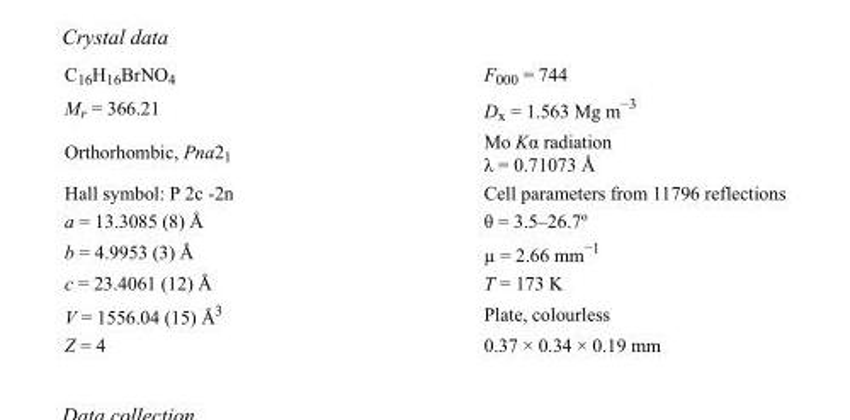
<table><tbody><tr><td>C<sub>16</sub>H<sub>16</sub>BrNO<sub>4</sub></td><td>F000 = 744</td></tr><tr><td>M<sub>r</sub> = 366.21</td><td>D<sub>x</sub> = 1.563 Mg m<sup>−3</sup></td></tr><tr><td>Orthorhombic, Pna2<sub>1</sub></td><td>Mo Kα radiation λ = 0.71073 Å</td></tr><tr><td>Hall symbol: P 2c -2n</td><td>Cell parameters from 11796 reflections</td></tr><tr><td>a = 13.3085 (8) Å</td><td>θ = 3.5–26.7º</td></tr><tr><td>b = 4.9953 (3) Å</td><td>µ = 2.66 mm<sup>−1</sup></td></tr><tr><td>c = 23.4061 (12) Å</td><td>T = 173 K</td></tr><tr><td>V = 1556.04 (15) Å<sup>3</sup></td><td>Plate, colourless</td></tr><tr><td>Z = 4</td><td>0.37 × 0.34 × 0.19 mm</td></tr></tbody></table>